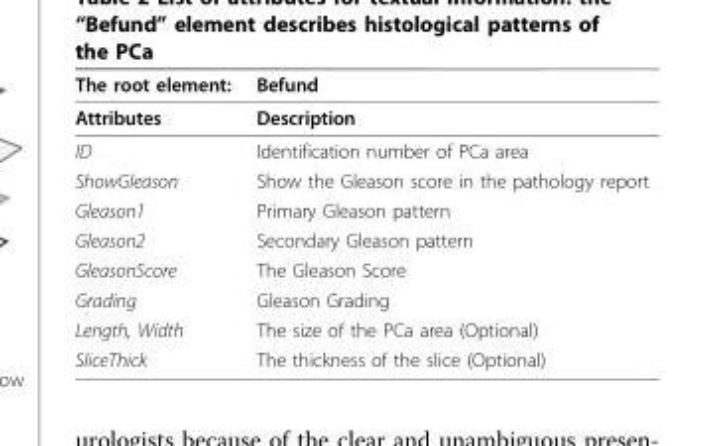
<table><thead><tr><td>The root element:</td><td>Befund</td></tr></thead><tbody><tr><td>Attributes</td><td>Description</td></tr><tr><td>ID</td><td>Identification number of PCa area</td></tr><tr><td>ShowGleason</td><td>Show the Gleason score in the pathology report</td></tr><tr><td>Gleason1</td><td>Primary Gleason pattern</td></tr><tr><td>Gleason2</td><td>Secondary Gleason pattern</td></tr><tr><td>GleasonScore</td><td>The Gleason Score</td></tr><tr><td>Grading</td><td>Gleason Grading</td></tr><tr><td>Length, Width</td><td>The size of the PCa area (Optional)</td></tr><tr><td>SliceThick</td><td>The thickness of the slice (Optional)</td></tr></tbody></table>